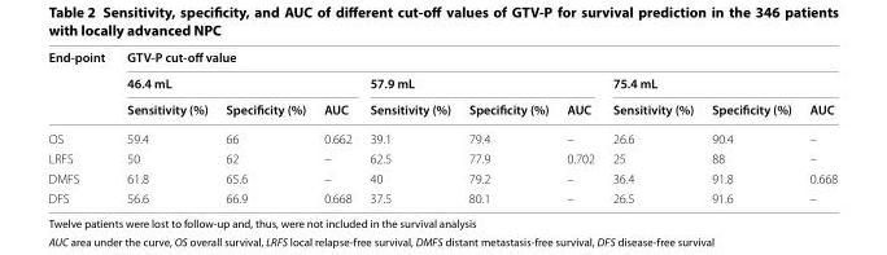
<table><thead><tr><td rowspan="3">End‑point</td><td colspan="9">GTV‑P cut‑off value</td></tr><tr><td colspan="3">46.4 mL</td><td colspan="3">57.9 mL</td><td colspan="3">75.4 mL</td></tr><tr><td>Sensitivity (%)</td><td>Specificity (%)</td><td>AUC</td><td>Sensitivity (%)</td><td>Specificity (%)</td><td>AUC</td><td>Sensitivity (%)</td><td>Specificity (%)</td><td>AUC</td></tr></thead><tbody><tr><td>OS</td><td>59.4</td><td>66</td><td>0.662</td><td>39.1</td><td>79.4</td><td>–</td><td>26.6</td><td>90.4</td><td>–</td></tr><tr><td>LRFS</td><td>50</td><td>62</td><td>–</td><td>62.5</td><td>77.9</td><td>0.702</td><td>25</td><td>88</td><td>–</td></tr><tr><td>DMFS</td><td>61.8</td><td>65.6</td><td>–</td><td>40</td><td>79.2</td><td>–</td><td>36.4</td><td>91.8</td><td>0.668</td></tr><tr><td>DFS</td><td>56.6</td><td>66.9</td><td>0.668</td><td>37.5</td><td>80.1</td><td>–</td><td>26.5</td><td>91.6</td><td>–</td></tr></tbody></table>